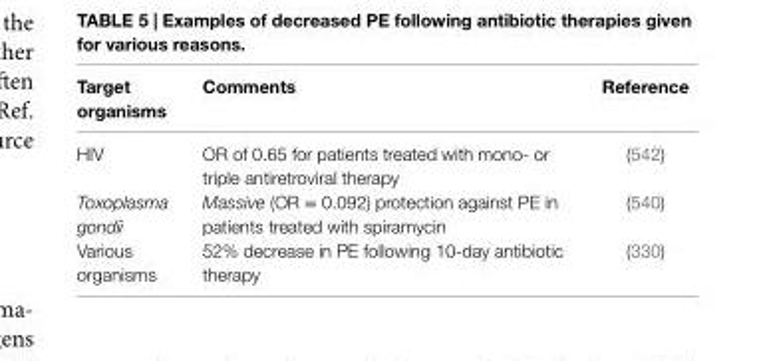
<table><thead><tr><td>Target organisms</td><td>Comments</td><td>Reference</td></tr></thead><tbody><tr><td>HIV</td><td>OR of 0.65 for patients treated with mono- or triple antiretroviral therapy</td><td>(542)</td></tr><tr><td>Toxoplasma gondii</td><td>Massive (OR = 0.092) protection against PE in patients treated with spiramycin</td><td>(540)</td></tr><tr><td>Various organisms</td><td>52% decrease in PE following 10-day antibiotic therapy</td><td>(330)</td></tr></tbody></table>